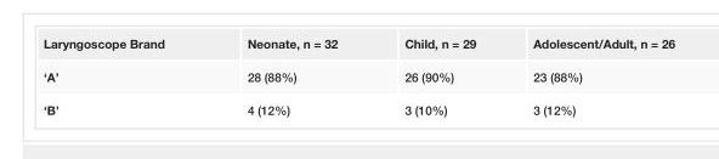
<table><tbody><tr><td>Laryngoscope Brand</td><td>Neonate, n = 32</td><td>Child, n = 29</td><td>Adolescent/Adult, n = 26</td></tr><tr><td>‘A’</td><td>28 (88%)</td><td>26 (90%)</td><td>23 (88%)</td></tr><tr><td>‘B’</td><td>4 (12%)</td><td>3 (10%)</td><td>3 (12%)</td></tr></tbody></table>